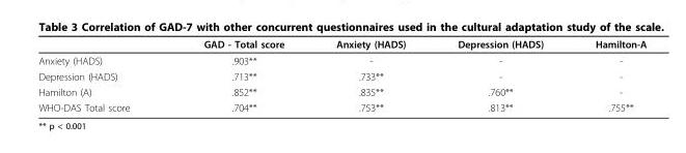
<table><thead><tr><td></td><td>GAD - Total score</td><td>Anxiety (HADS)</td><td>Depression (HADS)</td><td>Hamilton-A</td></tr></thead><tbody><tr><td>Anxiety (HADS)</td><td>.903**</td><td>-</td><td>-</td><td>-</td></tr><tr><td>Depression (HADS)</td><td>.713**</td><td>.733**</td><td>-</td><td>-</td></tr><tr><td>Hamilton (A)</td><td>.852**</td><td>.835**</td><td>.760**</td><td>-</td></tr><tr><td>WHO-DAS Total score</td><td>.704**</td><td>.753**</td><td>.813**</td><td>.755**</td></tr></tbody></table>